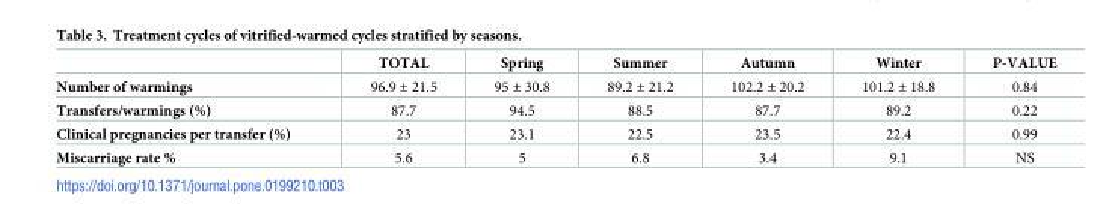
<table><thead><tr><td></td><td>TOTAL</td><td>Spring</td><td>Summer</td><td>Autumn</td><td>Winter</td><td>P-VALUE</td></tr></thead><tbody><tr><td>Number of warmings</td><td>96.9 ± 21.5</td><td>95 ± 30.8</td><td>89.2 ± 21.2</td><td>102.2 ± 20.2</td><td>101.2 ± 18.8</td><td>0.84</td></tr><tr><td>Transfers/warmings (%)</td><td>87.7</td><td>94.5</td><td>88.5</td><td>87.7</td><td>89.2</td><td>0.22</td></tr><tr><td>Clinical pregnancies per transfer (%)</td><td>23</td><td>23.1</td><td>22.5</td><td>23.5</td><td>22.4</td><td>0.99</td></tr><tr><td>Miscarriage rate %</td><td>5.6</td><td>5</td><td>6.8</td><td>3.4</td><td>9.1</td><td>NS</td></tr></tbody></table>